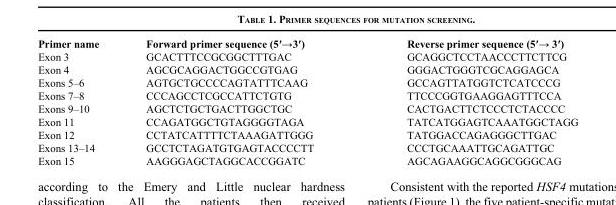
<table><thead><tr><td>Primer name</td><td>Forward primer sequence (5′→3′)</td><td>Reverse primer sequence (5′→ 3′)</td></tr></thead><tbody><tr><td>Exon 3</td><td>GCACTTTCCGCGGCTTTGAC</td><td>GCAGGCTCCTAACCCTTCTTCG</td></tr><tr><td>Exon 4</td><td>AGCGCAGGACTGGCCGTGAG</td><td>GGGACTGGGTCGCAGGAGCA</td></tr><tr><td>Exons 5–6</td><td>AGTGCTGCCCCAGTATTTCAAG</td><td>GCCAGTTATGGTCTCATCCCG</td></tr><tr><td>Exons 7–8</td><td>CCCAGCCTCGCCATTCTGTG</td><td>TTCCCGGTGAAGGAGTTTCCA</td></tr><tr><td>Exons 9–10</td><td>AGCTCTGCTGACTTGGCTGC</td><td>CACTGACTTCTCCCTCTACCCC</td></tr><tr><td>Exon 11</td><td>CCAGATGGCTGTAGGGGTAGA</td><td>TATCATGGAGTCAAATGGCTAGG</td></tr><tr><td>Exon 12</td><td>CCTATCATTTTCTAAAGATTGGG</td><td>TATGGACCAGAGGGCTTGAC</td></tr><tr><td>Exons 13–14</td><td>GCCTCTAGATGTGAGTACCCCTT</td><td>CCCTGCAAATTGCAGATTGC</td></tr><tr><td>Exon 15</td><td>AAGGGAGCTAGGCACCGGATC</td><td>AGCAGAAGGCAGGCGGGCAG</td></tr></tbody></table>